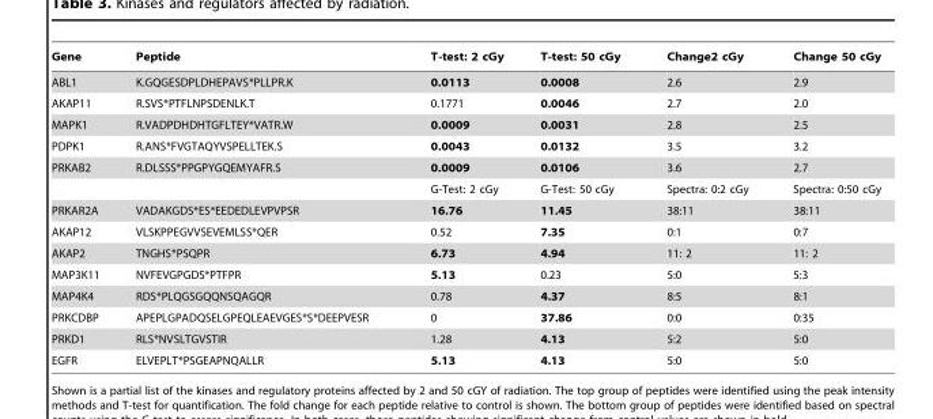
<table><thead><tr><td>Gene</td><td>Peptide</td><td>T-test: 2 cGy</td><td>T-test: 50 cGy</td><td>Change2 cGy</td><td>Change 50 cGy</td></tr></thead><tbody><tr><td>ABL1</td><td>K.GQGESDPLDHEPAVS*PLLPR.K</td><td>0.0113</td><td>0.0008</td><td>2.6</td><td>2.9</td></tr><tr><td>AKAP11</td><td>R.SVS*PTFLNPSDENLK.T</td><td>0.1771</td><td>0.0046</td><td>2.7</td><td>2.0</td></tr><tr><td>MAPK1</td><td>R.VADPDHDHTGFLTEY*VATR.W</td><td>0.0009</td><td>0.0031</td><td>2.8</td><td>2.5</td></tr><tr><td>PDPK1</td><td>R.ANS*FVGTAQYVSPELLTEK.S</td><td>0.0043</td><td>0.0132</td><td>3.5</td><td>3.2</td></tr><tr><td rowspan="2">PRKAB2</td><td>R.DLSSS*PPGPYGQEMYAFR.S</td><td>0.0009</td><td>0.0106</td><td>3.6</td><td>2.7</td></tr><tr><td></td><td>G-Test: 2 cGy</td><td>G-Test: 50 cGy</td><td>Spectra: 0:2 cGy</td><td>Spectra: 0:50 cGy</td></tr><tr><td>PRKAR2A</td><td>VADAKGDS*ES*EEDEDLEVPVPSR</td><td>16.76</td><td>11.45</td><td>38:11</td><td>38:11</td></tr><tr><td>AKAP12</td><td>VLSKPPEGVVSEVEMLSS*QER</td><td>0.52</td><td>7.35</td><td>0:1</td><td>0:7</td></tr><tr><td>AKAP2</td><td>TNGHS*PSQPR</td><td>6.73</td><td>4.94</td><td>11: 2</td><td>11: 2</td></tr><tr><td>MAP3K11</td><td>NVFEVGPGDS*PTFPR</td><td>5.13</td><td>0.23</td><td>5:0</td><td>5:3</td></tr><tr><td>MAP4K4</td><td>RDS*PLQGSGQQNSQAGQR</td><td>0.78</td><td>4.37</td><td>8:5</td><td>8:1</td></tr><tr><td>PRKCDBP</td><td>APEPLGPADQSELGPEQLEAEVGES*S*DEEPVESR</td><td>0</td><td>37.86</td><td>0:0</td><td>0:35</td></tr><tr><td>PRKD1</td><td>RLS*NVSLTGVSTIR</td><td>1.28</td><td>4.13</td><td>5:2</td><td>5:0</td></tr><tr><td>EGFR</td><td>ELVEPLT*PSGEAPNQALLR</td><td>5.13</td><td>4.13</td><td>5:0</td><td>5:0</td></tr></tbody></table>